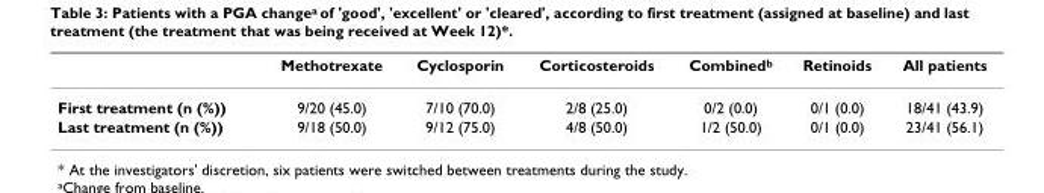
<table><thead><tr><td></td><td>Methotrexate</td><td>Cyclosporin</td><td>Corticosteroids</td><td>Combinedb</td><td>Retinoids</td><td>All patients</td></tr></thead><tbody><tr><td>First treatment (n (%))</td><td>9/20 (45.0)</td><td>7/10 (70.0)</td><td>2/8 (25.0)</td><td>0/2 (0.0)</td><td>0/1 (0.0)</td><td>18/41 (43.9)</td></tr><tr><td>Last treatment (n (%))</td><td>9/18 (50.0)</td><td>9/12 (75.0)</td><td>4/8 (50.0)</td><td>1/2 (50.0)</td><td>0/1 (0.0)</td><td>23/41 (56.1)</td></tr></tbody></table>